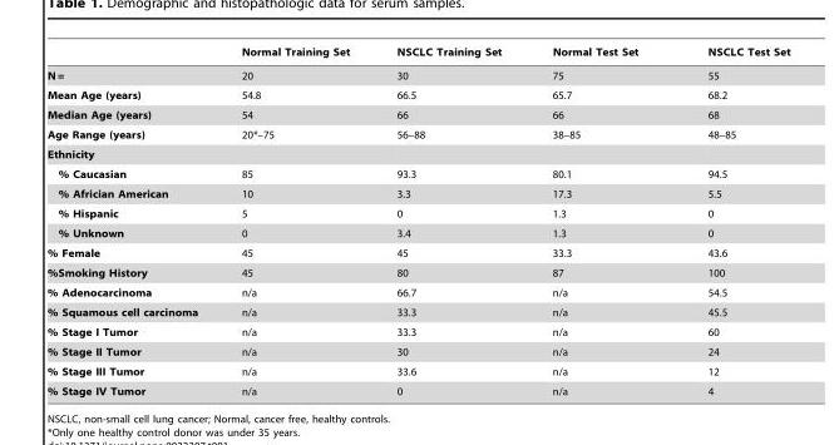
<table><thead><tr><td></td><td>Normal Training Set</td><td>NSCLC Training Set</td><td>Normal Test Set</td><td>NSCLC Test Set</td></tr></thead><tbody><tr><td>N =</td><td>20</td><td>30</td><td>75</td><td>55</td></tr><tr><td>Mean Age (years)</td><td>54.8</td><td>66.5</td><td>65.7</td><td>68.2</td></tr><tr><td>Median Age (years)</td><td>54</td><td>66</td><td>66</td><td>68</td></tr><tr><td>Age Range (years)</td><td>20*–75</td><td>56–88</td><td>38–85</td><td>48–85</td></tr><tr><td colspan="5">Ethnicity</td></tr><tr><td>% Caucasian</td><td>85</td><td>93.3</td><td>80.1</td><td>94.5</td></tr><tr><td>% Africian American</td><td>10</td><td>3.3</td><td>17.3</td><td>5.5</td></tr><tr><td>% Hispanic</td><td>5</td><td>0</td><td>1.3</td><td>0</td></tr><tr><td>% Unknown</td><td>0</td><td>3.4</td><td>1.3</td><td>0</td></tr><tr><td>% Female</td><td>45</td><td>45</td><td>33.3</td><td>43.6</td></tr><tr><td>%Smoking History</td><td>45</td><td>80</td><td>87</td><td>100</td></tr><tr><td>% Adenocarcinoma</td><td>n/a</td><td>66.7</td><td>n/a</td><td>54.5</td></tr><tr><td>% Squamous cell carcinoma</td><td>n/a</td><td>33.3</td><td>n/a</td><td>45.5</td></tr><tr><td>% Stage I Tumor</td><td>n/a</td><td>33.3</td><td>n/a</td><td>60</td></tr><tr><td>% Stage II Tumor</td><td>n/a</td><td>30</td><td>n/a</td><td>24</td></tr><tr><td>% Stage III Tumor</td><td>n/a</td><td>33.6</td><td>n/a</td><td>12</td></tr><tr><td>% Stage IV Tumor</td><td>n/a</td><td>0</td><td>n/a</td><td>4</td></tr></tbody></table>